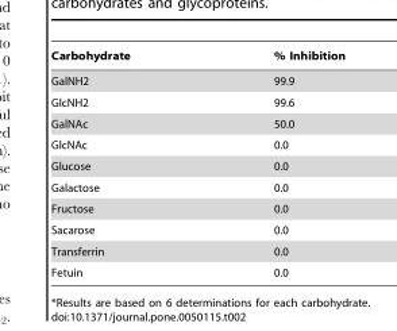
<table><thead><tr><td>Carbohydrate</td><td>% Inhibition</td></tr></thead><tbody><tr><td>GalNH2</td><td>99.9</td></tr><tr><td>GlcNH2</td><td>99.6</td></tr><tr><td>GalNAc</td><td>50.0</td></tr><tr><td>GlcNAc</td><td>0.0</td></tr><tr><td>Glucose</td><td>0.0</td></tr><tr><td>Galactose</td><td>0.0</td></tr><tr><td>Fructose</td><td>0.0</td></tr><tr><td>Sacarose</td><td>0.0</td></tr><tr><td>Transferrin</td><td>0.0</td></tr><tr><td>Fetuin</td><td>0.0</td></tr></tbody></table>